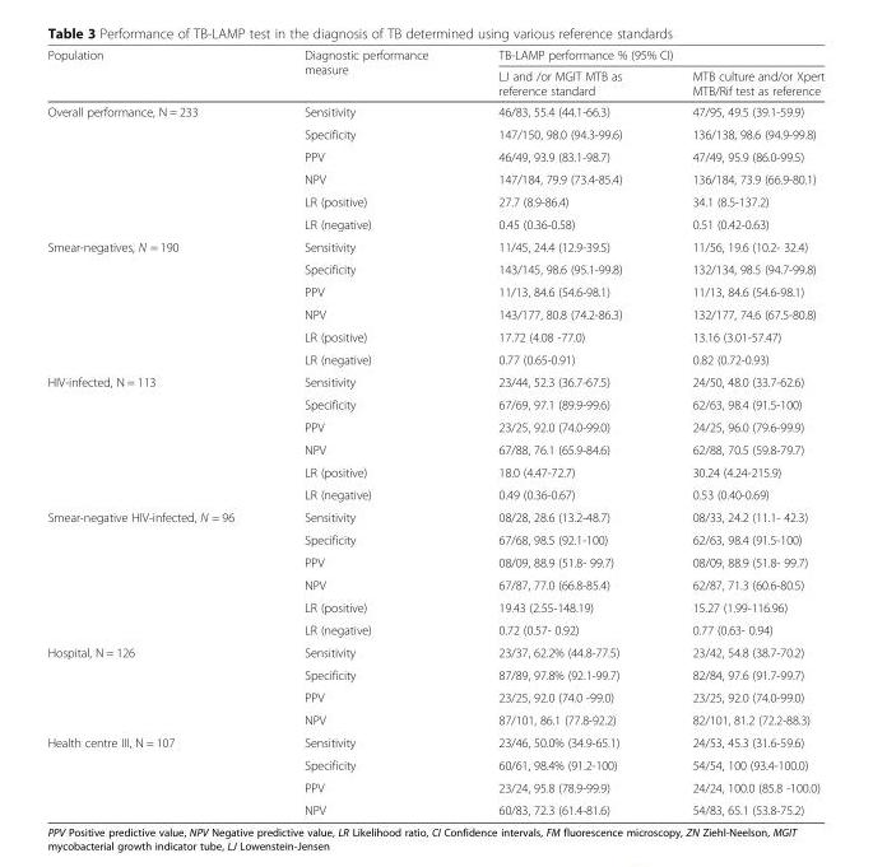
<table><thead><tr><td rowspan="2">Population</td><td rowspan="2">Diagnostic performance measure</td><td colspan="2">TB-LAMP performance % (95% CI)</td></tr><tr><td>LJ and /or MGIT MTB as reference standard</td><td>MTB culture and/or Xpert MTB/Rif test as reference</td></tr></thead><tbody><tr><td rowspan="6">Overall performance, N = 233</td><td>Sensitivity</td><td>46/83, 55.4 (44.1-66.3)</td><td>47/95, 49.5 (39.1-59.9)</td></tr><tr><td>Specificity</td><td>147/150, 98.0 (94.3-99.6)</td><td>136/138, 98.6 (94.9-99.8)</td></tr><tr><td>PPV</td><td>46/49, 93.9 (83.1-98.7)</td><td>47/49, 95.9 (86.0-99.5)</td></tr><tr><td>NPV</td><td>147/184, 79.9 (73.4-85.4)</td><td>136/184, 73.9 (66.9-80.1)</td></tr><tr><td>LR (positive)</td><td>27.7 (8.9-86.4)</td><td>34.1 (8.5-137.2)</td></tr><tr><td>LR (negative)</td><td>0.45 (0.36-0.58)</td><td>0.51 (0.42-0.63)</td></tr><tr><td rowspan="6">Smear-negatives, N = 190</td><td>Sensitivity</td><td>11/45, 24.4 (12.9-39.5)</td><td>11/56, 19.6 (10.2- 32.4)</td></tr><tr><td>Specificity</td><td>143/145, 98.6 (95.1-99.8)</td><td>132/134, 98.5 (94.7-99.8)</td></tr><tr><td>PPV</td><td>11/13, 84.6 (54.6-98.1)</td><td>11/13, 84.6 (54.6-98.1)</td></tr><tr><td>NPV</td><td>143/177, 80.8 (74.2-86.3)</td><td>132/177, 74.6 (67.5-80.8)</td></tr><tr><td>LR (positive)</td><td>17.72 (4.08 -77.0)</td><td>13.16 (3.01-57.47)</td></tr><tr><td>LR (negative)</td><td>0.77 (0.65-0.91)</td><td>0.82 (0.72-0.93)</td></tr><tr><td rowspan="6">HIV-infected, N = 113</td><td>Sensitivity</td><td>23/44, 52.3 (36.7-67.5)</td><td>24/50, 48.0 (33.7-62.6)</td></tr><tr><td>Specificity</td><td>67/69, 97.1 (89.9-99.6)</td><td>62/63, 98.4 (91.5-100)</td></tr><tr><td>PPV</td><td>23/25, 92.0 (74.0-99.0)</td><td>24/25, 96.0 (79.6-99.9)</td></tr><tr><td>NPV</td><td>67/88, 76.1 (65.9-84.6)</td><td>62/88, 70.5 (59.8-79.7)</td></tr><tr><td>LR (positive)</td><td>18.0 (4.47-72.7)</td><td>30.24 (4.24-215.9)</td></tr><tr><td>LR (negative)</td><td>0.49 (0.36-0.67)</td><td>0.53 (0.40-0.69)</td></tr><tr><td rowspan="6">Smear-negative HIV-infected, N = 96</td><td>Sensitivity</td><td>08/28, 28.6 (13.2-48.7)</td><td>08/33, 24.2 (11.1- 42.3)</td></tr><tr><td>Specificity</td><td>67/68, 98.5 (92.1-100)</td><td>62/63, 98.4 (91.5-100)</td></tr><tr><td>PPV</td><td>08/09, 88.9 (51.8- 99.7)</td><td>08/09, 88.9 (51.8- 99.7)</td></tr><tr><td>NPV</td><td>67/87, 77.0 (66.8-85.4)</td><td>62/87, 71.3 (60.6-80.5)</td></tr><tr><td>LR (positive)</td><td>19.43 (2.55-148.19)</td><td>15.27 (1.99-116.96)</td></tr><tr><td>LR (negative)</td><td>0.72 (0.57- 0.92)</td><td>0.77 (0.63- 0.94)</td></tr><tr><td rowspan="4">Hospital, N = 126</td><td>Sensitivity</td><td>23/37, 62.2% (44.8-77.5)</td><td>23/42, 54.8 (38.7-70.2)</td></tr><tr><td>Specificity</td><td>87/89, 97.8% (92.1-99.7)</td><td>82/84, 97.6 (91.7-99.7)</td></tr><tr><td>PPV</td><td>23/25, 92.0 (74.0 -99.0)</td><td>23/25, 92.0 (74.0-99.0)</td></tr><tr><td>NPV</td><td>87/101, 86.1 (77.8-92.2)</td><td>82/101, 81.2 (72.2-88.3)</td></tr><tr><td rowspan="4">Health centre III, N = 107</td><td>Sensitivity</td><td>23/46, 50.0% (34.9-65.1)</td><td>24/53, 45.3 (31.6-59.6)</td></tr><tr><td>Specificity</td><td>60/61, 98.4% (91.2-100)</td><td>54/54, 100 (93.4-100.0)</td></tr><tr><td>PPV</td><td>23/24, 95.8 (78.9-99.9)</td><td>24/24, 100.0 (85.8 -100.0)</td></tr><tr><td>NPV</td><td>60/83, 72.3 (61.4-81.6)</td><td>54/83, 65.1 (53.8-75.2)</td></tr></tbody></table>